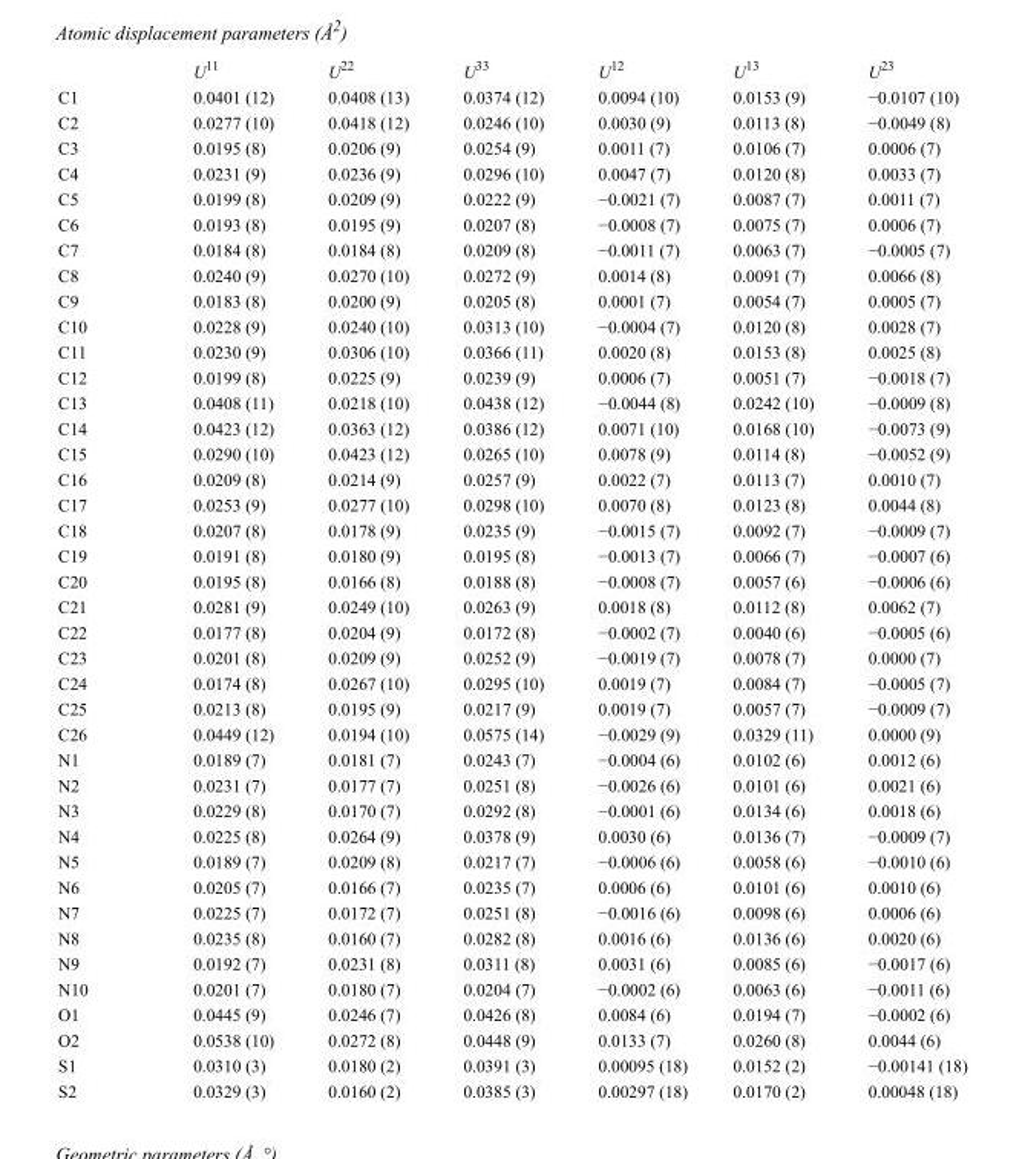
<table><thead><tr><td></td><td>U<sup>11</sup></td><td>U<sup>22</sup></td><td>U<sup>33</sup></td><td>U<sup>12</sup></td><td>U<sup>13</sup></td><td>U<sup>23</sup></td></tr></thead><tbody><tr><td>C1</td><td>0.0401 (12)</td><td>0.0408 (13)</td><td>0.0374 (12)</td><td>0.0094 (10)</td><td>0.0153 (9)</td><td>−0.0107 (10)</td></tr><tr><td>C2</td><td>0.0277 (10)</td><td>0.0418 (12)</td><td>0.0246 (10)</td><td>0.0030 (9)</td><td>0.0113 (8)</td><td>−0.0049 (8)</td></tr><tr><td>C3</td><td>0.0195 (8)</td><td>0.0206 (9)</td><td>0.0254 (9)</td><td>0.0011 (7)</td><td>0.0106 (7)</td><td>0.0006 (7)</td></tr><tr><td>C4</td><td>0.0231 (9)</td><td>0.0236 (9)</td><td>0.0296 (10)</td><td>0.0047 (7)</td><td>0.0120 (8)</td><td>0.0033 (7)</td></tr><tr><td>C5</td><td>0.0199 (8)</td><td>0.0209 (9)</td><td>0.0222 (9)</td><td>−0.0021 (7)</td><td>0.0087 (7)</td><td>0.0011 (7)</td></tr><tr><td>C6</td><td>0.0193 (8)</td><td>0.0195 (9)</td><td>0.0207 (8)</td><td>−0.0008 (7)</td><td>0.0075 (7)</td><td>0.0006 (7)</td></tr><tr><td>C7</td><td>0.0184 (8)</td><td>0.0184 (8)</td><td>0.0209 (8)</td><td>−0.0011 (7)</td><td>0.0063 (7)</td><td>−0.0005 (7)</td></tr><tr><td>C8</td><td>0.0240 (9)</td><td>0.0270 (10)</td><td>0.0272 (9)</td><td>0.0014 (8)</td><td>0.0091 (7)</td><td>0.0066 (8)</td></tr><tr><td>C9</td><td>0.0183 (8)</td><td>0.0200 (9)</td><td>0.0205 (8)</td><td>0.0001 (7)</td><td>0.0054 (7)</td><td>0.0005 (7)</td></tr><tr><td>C10</td><td>0.0228 (9)</td><td>0.0240 (10)</td><td>0.0313 (10)</td><td>−0.0004 (7)</td><td>0.0120 (8)</td><td>0.0028 (7)</td></tr><tr><td>C11</td><td>0.0230 (9)</td><td>0.0306 (10)</td><td>0.0366 (11)</td><td>0.0020 (8)</td><td>0.0153 (8)</td><td>0.0025 (8)</td></tr><tr><td>C12</td><td>0.0199 (8)</td><td>0.0225 (9)</td><td>0.0239 (9)</td><td>0.0006 (7)</td><td>0.0051 (7)</td><td>−0.0018 (7)</td></tr><tr><td>C13</td><td>0.0408 (11)</td><td>0.0218 (10)</td><td>0.0438 (12)</td><td>−0.0044 (8)</td><td>0.0242 (10)</td><td>−0.0009 (8)</td></tr><tr><td>C14</td><td>0.0423 (12)</td><td>0.0363 (12)</td><td>0.0386 (12)</td><td>0.0071 (10)</td><td>0.0168 (10)</td><td>−0.0073 (9)</td></tr><tr><td>C15</td><td>0.0290 (10)</td><td>0.0423 (12)</td><td>0.0265 (10)</td><td>0.0078 (9)</td><td>0.0114 (8)</td><td>−0.0052 (9)</td></tr><tr><td>C16</td><td>0.0209 (8)</td><td>0.0214 (9)</td><td>0.0257 (9)</td><td>0.0022 (7)</td><td>0.0113 (7)</td><td>0.0010 (7)</td></tr><tr><td>C17</td><td>0.0253 (9)</td><td>0.0277 (10)</td><td>0.0298 (10)</td><td>0.0070 (8)</td><td>0.0123 (8)</td><td>0.0044 (8)</td></tr><tr><td>C18</td><td>0.0207 (8)</td><td>0.0178 (9)</td><td>0.0235 (9)</td><td>−0.0015 (7)</td><td>0.0092 (7)</td><td>−0.0009 (7)</td></tr><tr><td>C19</td><td>0.0191 (8)</td><td>0.0180 (9)</td><td>0.0195 (8)</td><td>−0.0013 (7)</td><td>0.0066 (7)</td><td>−0.0007 (6)</td></tr><tr><td>C20</td><td>0.0195 (8)</td><td>0.0166 (8)</td><td>0.0188 (8)</td><td>−0.0008 (7)</td><td>0.0057 (6)</td><td>−0.0006 (6)</td></tr><tr><td>C21</td><td>0.0281 (9)</td><td>0.0249 (10)</td><td>0.0263 (9)</td><td>0.0018 (8)</td><td>0.0112 (8)</td><td>0.0062 (7)</td></tr><tr><td>C22</td><td>0.0177 (8)</td><td>0.0204 (9)</td><td>0.0172 (8)</td><td>−0.0002 (7)</td><td>0.0040 (6)</td><td>−0.0005 (6)</td></tr><tr><td>C23</td><td>0.0201 (8)</td><td>0.0209 (9)</td><td>0.0252 (9)</td><td>−0.0019 (7)</td><td>0.0078 (7)</td><td>0.0000 (7)</td></tr><tr><td>C24</td><td>0.0174 (8)</td><td>0.0267 (10)</td><td>0.0295 (10)</td><td>0.0019 (7)</td><td>0.0084 (7)</td><td>−0.0005 (7)</td></tr><tr><td>C25</td><td>0.0213 (8)</td><td>0.0195 (9)</td><td>0.0217 (9)</td><td>0.0019 (7)</td><td>0.0057 (7)</td><td>−0.0009 (7)</td></tr><tr><td>C26</td><td>0.0449 (12)</td><td>0.0194 (10)</td><td>0.0575 (14)</td><td>−0.0029 (9)</td><td>0.0329 (11)</td><td>0.0000 (9)</td></tr><tr><td>N1</td><td>0.0189 (7)</td><td>0.0181 (7)</td><td>0.0243 (7)</td><td>−0.0004 (6)</td><td>0.0102 (6)</td><td>0.0012 (6)</td></tr><tr><td>N2</td><td>0.0231 (7)</td><td>0.0177 (7)</td><td>0.0251 (8)</td><td>−0.0026 (6)</td><td>0.0101 (6)</td><td>0.0021 (6)</td></tr><tr><td>N3</td><td>0.0229 (8)</td><td>0.0170 (7)</td><td>0.0292 (8)</td><td>−0.0001 (6)</td><td>0.0134 (6)</td><td>0.0018 (6)</td></tr><tr><td>N4</td><td>0.0225 (8)</td><td>0.0264 (9)</td><td>0.0378 (9)</td><td>0.0030 (6)</td><td>0.0136 (7)</td><td>−0.0009 (7)</td></tr><tr><td>N5</td><td>0.0189 (7)</td><td>0.0209 (8)</td><td>0.0217 (7)</td><td>−0.0006 (6)</td><td>0.0058 (6)</td><td>−0.0010 (6)</td></tr><tr><td>N6</td><td>0.0205 (7)</td><td>0.0166 (7)</td><td>0.0235 (7)</td><td>0.0006 (6)</td><td>0.0101 (6)</td><td>0.0010 (6)</td></tr><tr><td>N7</td><td>0.0225 (7)</td><td>0.0172 (7)</td><td>0.0251 (8)</td><td>−0.0016 (6)</td><td>0.0098 (6)</td><td>0.0006 (6)</td></tr><tr><td>N8</td><td>0.0235 (8)</td><td>0.0160 (7)</td><td>0.0282 (8)</td><td>0.0016 (6)</td><td>0.0136 (6)</td><td>0.0020 (6)</td></tr><tr><td>N9</td><td>0.0192 (7)</td><td>0.0231 (8)</td><td>0.0311 (8)</td><td>0.0031 (6)</td><td>0.0085 (6)</td><td>−0.0017 (6)</td></tr><tr><td>N10</td><td>0.0201 (7)</td><td>0.0180 (7)</td><td>0.0204 (7)</td><td>−0.0002 (6)</td><td>0.0063 (6)</td><td>−0.0011 (6)</td></tr><tr><td>O1</td><td>0.0445 (9)</td><td>0.0246 (7)</td><td>0.0426 (8)</td><td>0.0084 (6)</td><td>0.0194 (7)</td><td>−0.0002 (6)</td></tr><tr><td>O2</td><td>0.0538 (10)</td><td>0.0272 (8)</td><td>0.0448 (9)</td><td>0.0133 (7)</td><td>0.0260 (8)</td><td>0.0044 (6)</td></tr><tr><td>S1</td><td>0.0310 (3)</td><td>0.0180 (2)</td><td>0.0391 (3)</td><td>0.00095 (18)</td><td>0.0152 (2)</td><td>−0.00141 (18)</td></tr><tr><td>S2</td><td>0.0329 (3)</td><td>0.0160 (2)</td><td>0.0385 (3)</td><td>0.00297 (18)</td><td>0.0170 (2)</td><td>0.00048 (18)</td></tr></tbody></table>